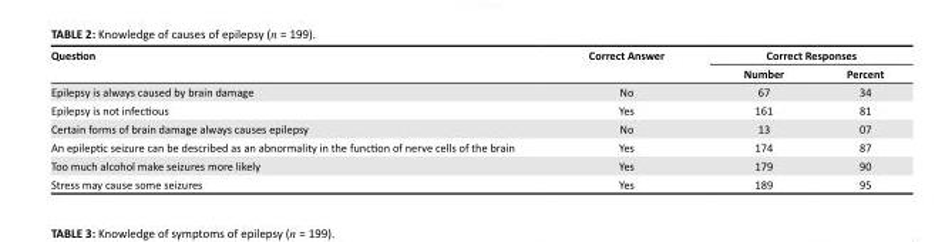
<table><thead><tr><td rowspan="2">Question</td><td rowspan="2">Correct Answer</td><td colspan="2">Correct Responses</td></tr><tr><td>Number</td><td>Percent</td></tr></thead><tbody><tr><td>Epilepsy is always caused by brain damage</td><td>No</td><td>67</td><td>34</td></tr><tr><td>Epilepsy is not infectious</td><td>Yes</td><td>161</td><td>81</td></tr><tr><td>Certain forms of brain damage always causes epilepsy</td><td>No</td><td>13</td><td>07</td></tr><tr><td>An epileptic seizure can be described as an abnormality in the function of nerve cells of the brain</td><td>Yes</td><td>174</td><td>87</td></tr><tr><td>Too much alcohol make seizures more likely</td><td>Yes</td><td>179</td><td>90</td></tr><tr><td>Stress may cause some seizures</td><td>Yes</td><td>189</td><td>95</td></tr></tbody></table>